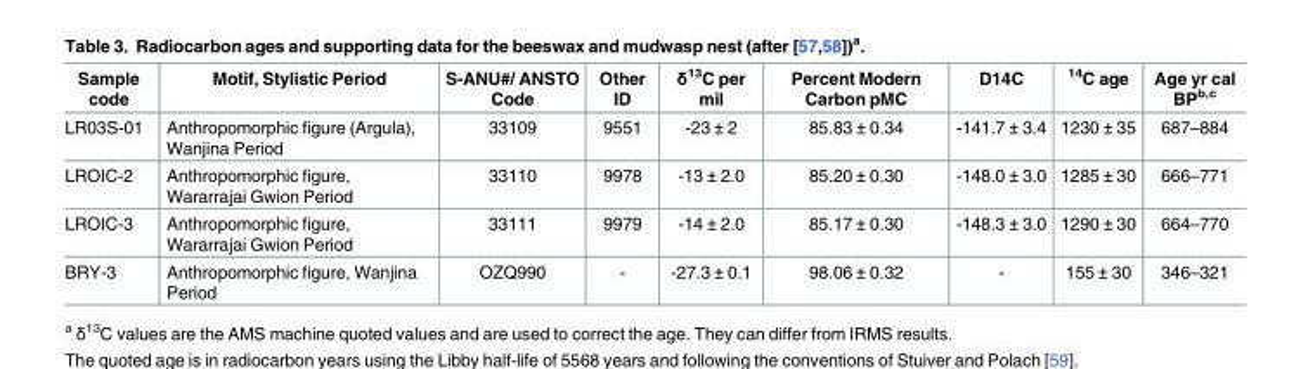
<table><thead><tr><td>Sample code</td><td>Motif, Stylistic Period</td><td>S-ANU#/ ANSTO Code</td><td>Other ID</td><td>δ<sup>13</sup>C per mil</td><td>Percent Modern Carbon pMC</td><td>D14C</td><td><sup>14</sup>C age</td><td>Age yr cal BP<sup>b,c</sup></td></tr></thead><tbody><tr><td>LR03S-01</td><td>Anthropomorphic figure (Argula), Wanjina Period</td><td>33109</td><td>9551</td><td>-23 ± 2</td><td>85.83 ± 0.34</td><td>-141.7 ± 3.4</td><td>1230 ± 35</td><td>687–884</td></tr><tr><td>LROIC-2</td><td>Anthropomorphic figure, Wararrajai Gwion Period</td><td>33110</td><td>9978</td><td>-13 ± 2.0</td><td>85.20 ± 0.30</td><td>-148.0 ± 3.0</td><td>1285 ± 30</td><td>666–771</td></tr><tr><td>LROIC-3</td><td>Anthropomorphic figure, Wararrajai Gwion Period</td><td>33111</td><td>9979</td><td>-14 ± 2.0</td><td>85.17 ± 0.30</td><td>-148.3 ± 3.0</td><td>1290 ± 30</td><td>664–770</td></tr><tr><td>BRY-3</td><td>Anthropomorphic figure, Wanjina Period</td><td>OZQ990</td><td>-</td><td>-27.3 ± 0.1</td><td>98.06 ± 0.32</td><td>-</td><td>155 ± 30</td><td>346–321</td></tr></tbody></table>